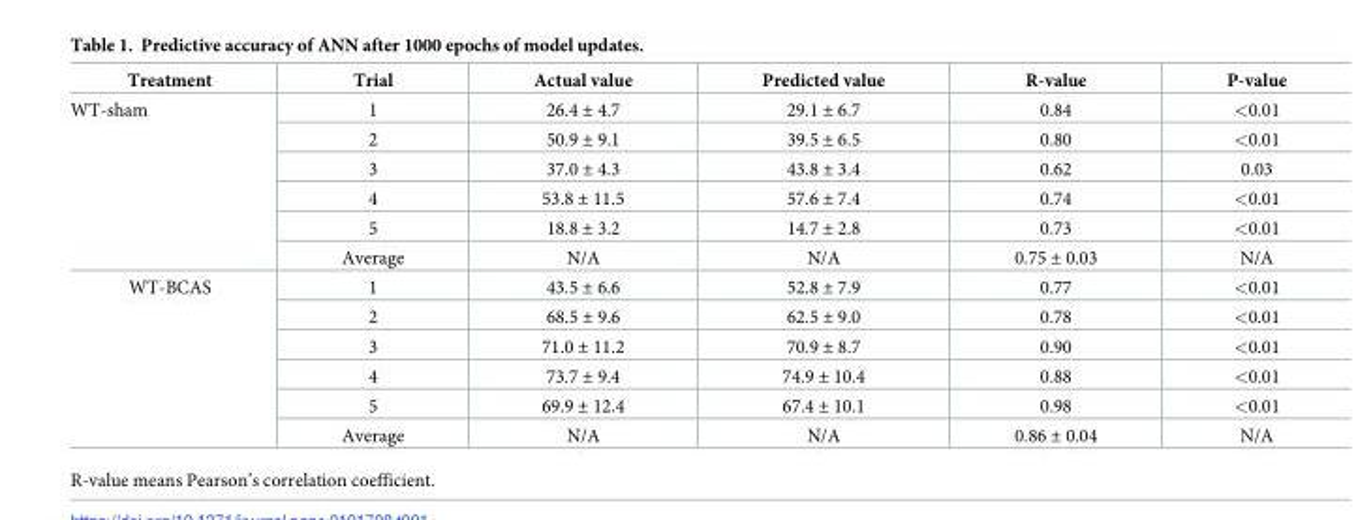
<table><thead><tr><td>Treatment</td><td>Trial</td><td>Actual value</td><td>Predicted value</td><td>R-value</td><td>P-value</td></tr></thead><tbody><tr><td rowspan="6">WT-sham</td><td>1</td><td>26.4 ± 4.7</td><td>29.1 ± 6.7</td><td>0.84</td><td>&lt;0.01</td></tr><tr><td>2</td><td>50.9 ± 9.1</td><td>39.5 ± 6.5</td><td>0.80</td><td>&lt;0.01</td></tr><tr><td>3</td><td>37.0 ± 4.3</td><td>43.8 ± 3.4</td><td>0.62</td><td>0.03</td></tr><tr><td>4</td><td>53.8 ± 11.5</td><td>57.6 ± 7.4</td><td>0.74</td><td>&lt;0.01</td></tr><tr><td>5</td><td>18.8 ± 3.2</td><td>14.7 ± 2.8</td><td>0.73</td><td>&lt;0.01</td></tr><tr><td>Average</td><td>N/A</td><td>N/A</td><td>0.75 ± 0.03</td><td>N/A</td></tr><tr><td rowspan="6">WT-BCAS</td><td>1</td><td>43.5 ± 6.6</td><td>52.8 ± 7.9</td><td>0.77</td><td>&lt;0.01</td></tr><tr><td>2</td><td>68.5 ± 9.6</td><td>62.5 ± 9.0</td><td>0.78</td><td>&lt;0.01</td></tr><tr><td>3</td><td>71.0 ± 11.2</td><td>70.9 ± 8.7</td><td>0.90</td><td>&lt;0.01</td></tr><tr><td>4</td><td>73.7 ± 9.4</td><td>74.9 ± 10.4</td><td>0.88</td><td>&lt;0.01</td></tr><tr><td>5</td><td>69.9 ± 12.4</td><td>67.4 ± 10.1</td><td>0.98</td><td>&lt;0.01</td></tr><tr><td>Average</td><td>N/A</td><td>N/A</td><td>0.86 ± 0.04</td><td>N/A</td></tr></tbody></table>